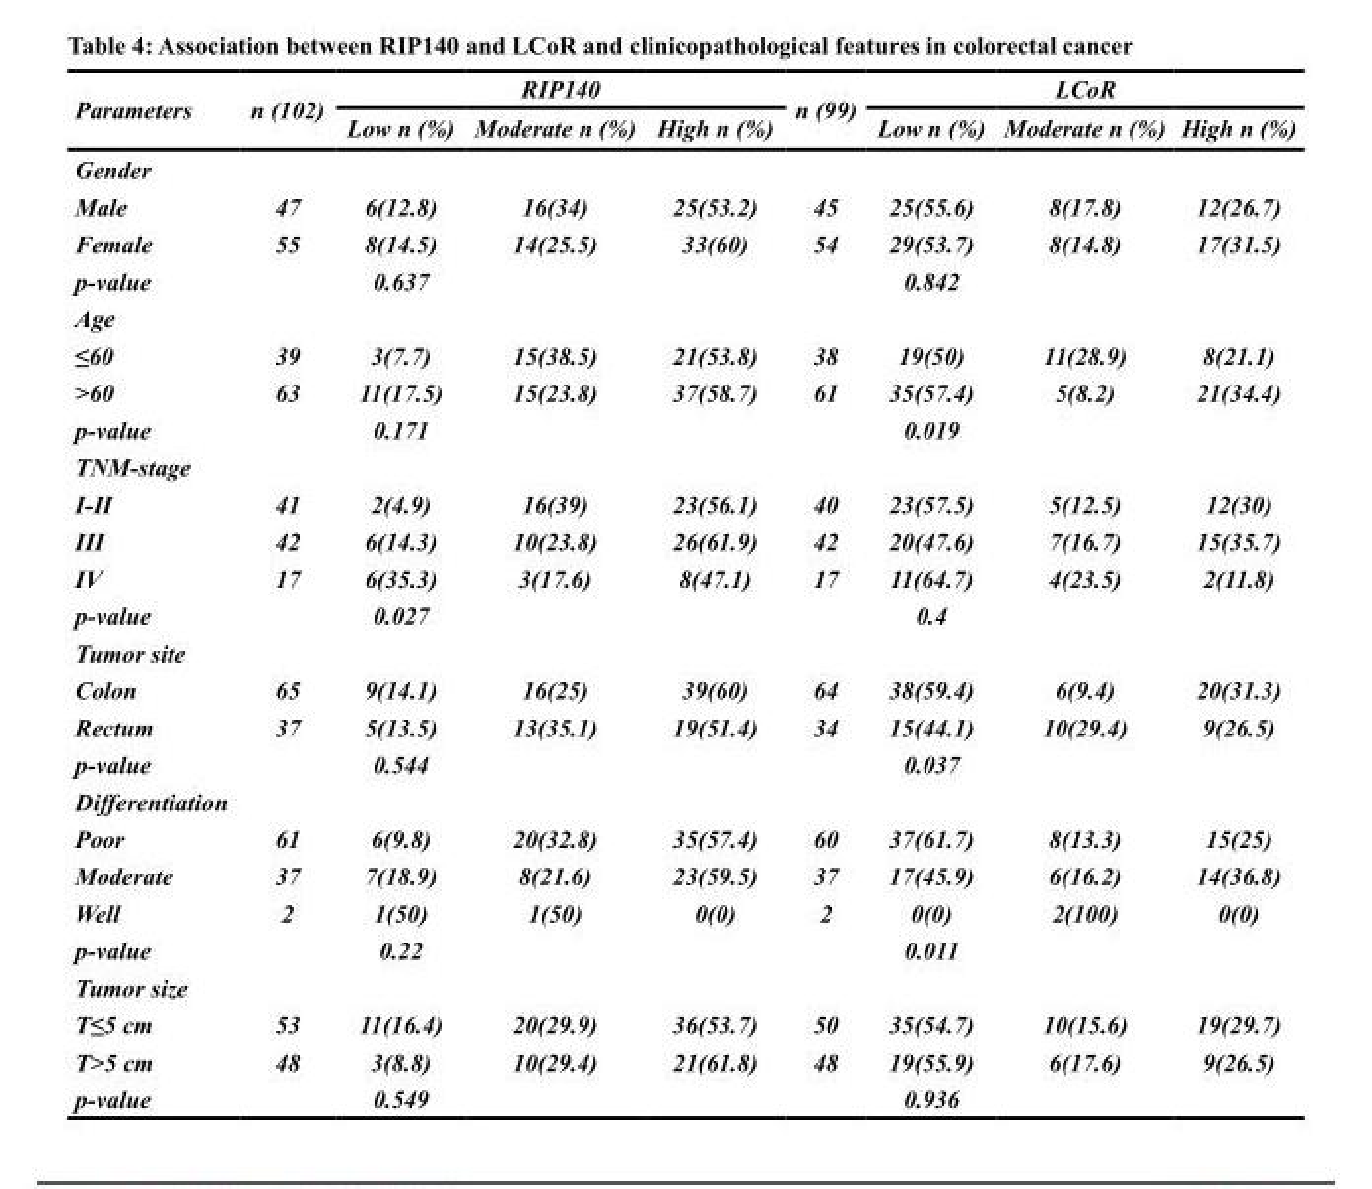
<table><thead><tr><td rowspan="2">Parameters</td><td rowspan="2">n (102)</td><td colspan="3">RIP140</td><td rowspan="2">n (99)</td><td colspan="3">LCoR</td></tr><tr><td>Low n (%)</td><td>Moderate n (%)</td><td>High n (%)</td><td>Low n (%)</td><td>Moderate n (%)</td><td>High n (%)</td></tr></thead><tbody><tr><td colspan="9">Gender</td></tr><tr><td>Male</td><td>47</td><td>6(12.8)</td><td>16(34)</td><td>25(53.2)</td><td>45</td><td>25(55.6)</td><td>8(17.8)</td><td>12(26.7)</td></tr><tr><td>Female</td><td>55</td><td>8(14.5)</td><td>14(25.5)</td><td>33(60)</td><td>54</td><td>29(53.7)</td><td>8(14.8)</td><td>17(31.5)</td></tr><tr><td>p-value</td><td></td><td>0.637</td><td></td><td></td><td></td><td>0.842</td><td></td><td></td></tr><tr><td colspan="9">Age</td></tr><tr><td>≤60</td><td>39</td><td>3(7.7)</td><td>15(38.5)</td><td>21(53.8)</td><td>38</td><td>19(50)</td><td>11(28.9)</td><td>8(21.1)</td></tr><tr><td>&gt;60</td><td>63</td><td>11(17.5)</td><td>15(23.8)</td><td>37(58.7)</td><td>61</td><td>35(57.4)</td><td>5(8.2)</td><td>21(34.4)</td></tr><tr><td>p-value</td><td></td><td>0.171</td><td></td><td></td><td></td><td>0.019</td><td></td><td></td></tr><tr><td colspan="9">TNM-stage</td></tr><tr><td>I-II</td><td>41</td><td>2(4.9)</td><td>16(39)</td><td>23(56.1)</td><td>40</td><td>23(57.5)</td><td>5(12.5)</td><td>12(30)</td></tr><tr><td>III</td><td>42</td><td>6(14.3)</td><td>10(23.8)</td><td>26(61.9)</td><td>42</td><td>20(47.6)</td><td>7(16.7)</td><td>15(35.7)</td></tr><tr><td>IV</td><td>17</td><td>6(35.3)</td><td>3(17.6)</td><td>8(47.1)</td><td>17</td><td>11(64.7)</td><td>4(23.5)</td><td>2(11.8)</td></tr><tr><td>p-value</td><td></td><td>0.027</td><td></td><td></td><td></td><td>0.4</td><td></td><td></td></tr><tr><td colspan="9">Tumor site</td></tr><tr><td>Colon</td><td>65</td><td>9(14.1)</td><td>16(25)</td><td>39(60)</td><td>64</td><td>38(59.4)</td><td>6(9.4)</td><td>20(31.3)</td></tr><tr><td>Rectum</td><td>37</td><td>5(13.5)</td><td>13(35.1)</td><td>19(51.4)</td><td>34</td><td>15(44.1)</td><td>10(29.4)</td><td>9(26.5)</td></tr><tr><td>p-value</td><td></td><td>0.544</td><td></td><td></td><td></td><td>0.037</td><td></td><td></td></tr><tr><td colspan="9">Differentiation</td></tr><tr><td>Poor</td><td>61</td><td>6(9.8)</td><td>20(32.8)</td><td>35(57.4)</td><td>60</td><td>37(61.7)</td><td>8(13.3)</td><td>15(25)</td></tr><tr><td>Moderate</td><td>37</td><td>7(18.9)</td><td>8(21.6)</td><td>23(59.5)</td><td>37</td><td>17(45.9)</td><td>6(16.2)</td><td>14(36.8)</td></tr><tr><td>Well</td><td>2</td><td>1(50)</td><td>1(50)</td><td>0(0)</td><td>2</td><td>0(0)</td><td>2(100)</td><td>0(0)</td></tr><tr><td>p-value</td><td></td><td>0.22</td><td></td><td></td><td></td><td>0.011</td><td></td><td></td></tr><tr><td colspan="9">Tumor size</td></tr><tr><td>T≤5 cm</td><td>53</td><td>11(16.4)</td><td>20(29.9)</td><td>36(53.7)</td><td>50</td><td>35(54.7)</td><td>10(15.6)</td><td>19(29.7)</td></tr><tr><td>T&gt;5 cm</td><td>48</td><td>3(8.8)</td><td>10(29.4)</td><td>21(61.8)</td><td>48</td><td>19(55.9)</td><td>6(17.6)</td><td>9(26.5)</td></tr><tr><td>p-value</td><td></td><td>0.549</td><td></td><td></td><td></td><td>0.936</td><td></td><td></td></tr></tbody></table>